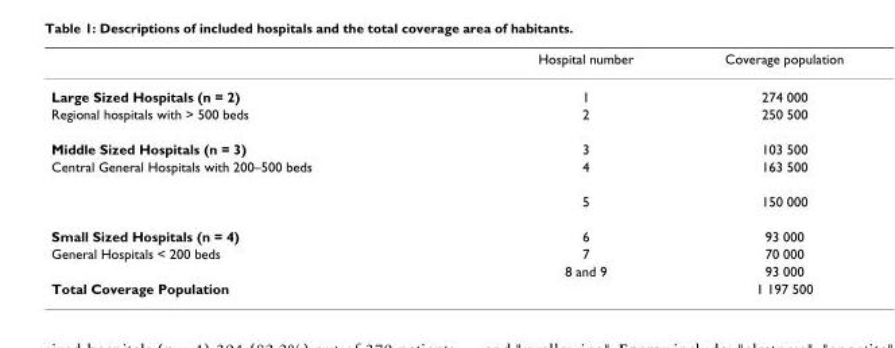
<table><thead><tr><td></td><td>Hospital number</td><td>Coverage population</td></tr></thead><tbody><tr><td>Large Sized Hospitals (n = 2)</td><td>1</td><td>274 000</td></tr><tr><td>Regional hospitals with &gt; 500 beds</td><td>2</td><td>250 500</td></tr><tr><td>Middle Sized Hospitals (n = 3)</td><td>3</td><td>103 500</td></tr><tr><td rowspan="2">Central General Hospitals with 200–500 beds</td><td>4</td><td>163 500</td></tr><tr><td>5</td><td>150 000</td></tr><tr><td>Small Sized Hospitals (n = 4)</td><td>6</td><td>93 000</td></tr><tr><td rowspan="2">General Hospitals &lt; 200 beds</td><td>7</td><td>70 000</td></tr><tr><td>8 and 9</td><td>93 000</td></tr><tr><td>Total Coverage Population</td><td></td><td>1 197 500</td></tr></tbody></table>